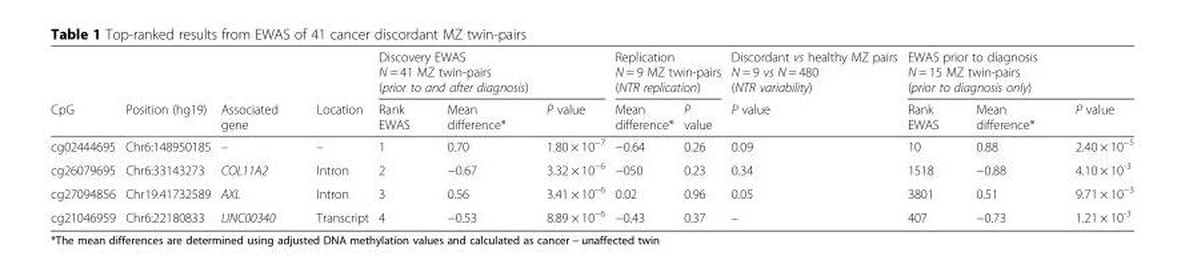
<table><thead><tr><td rowspan="2">CpG</td><td rowspan="2">Position (hg19)</td><td rowspan="2">Associated gene</td><td rowspan="2">Location</td><td colspan="3">Discovery EWAS N = 41 MZ twin-pairs (prior to and after diagnosis)</td><td colspan="2">Replication N = 9 MZ twin-pairs (NTR replication)</td><td rowspan="2">Discordant vs healthy MZ pairs N = 9 vs N = 480 (NTR variability) P value</td><td colspan="3">EWAS prior to diagnosis N = 15 MZ twin-pairs (prior to diagnosis only)</td></tr><tr><td>Rank EWAS</td><td>Mean difference*</td><td>P value</td><td>Mean difference*</td><td>P value</td><td>Rank EWAS</td><td>Mean difference*</td><td>P value</td></tr></thead><tbody><tr><td>cg02444695</td><td>Chr6:148950185</td><td>–</td><td>–</td><td>1</td><td>0.70</td><td>1.80 × 10<sup>−7</sup></td><td>−0.64</td><td>0.26</td><td>0.09</td><td>10</td><td>0.88</td><td>2.40 × 10<sup>−5</sup></td></tr><tr><td>cg26079695</td><td>Chr6:33143273</td><td>COL11A2</td><td>Intron</td><td>2</td><td>−0.67</td><td>3.32 × 10<sup>−6</sup></td><td>−050</td><td>0.23</td><td>0.34</td><td>1518</td><td>−0.88</td><td>4.10 × 10<sup>-3</sup></td></tr><tr><td>cg27094856</td><td>Chr19:41732589</td><td>AXL</td><td>Intron</td><td>3</td><td>0.56</td><td>3.41 × 10<sup>−6</sup></td><td>0.02</td><td>0.96</td><td>0.05</td><td>3801</td><td>0.51</td><td>9.71 × 10<sup>−3</sup></td></tr><tr><td>cg21046959</td><td>Chr6:22180833</td><td>LINC00340</td><td>Transcript</td><td>4</td><td>−0.53</td><td>8.89 × 10<sup>−6</sup></td><td>−0.43</td><td>0.37</td><td>–</td><td>407</td><td>−0.73</td><td>1.21 × 10<sup>-3</sup></td></tr></tbody></table>